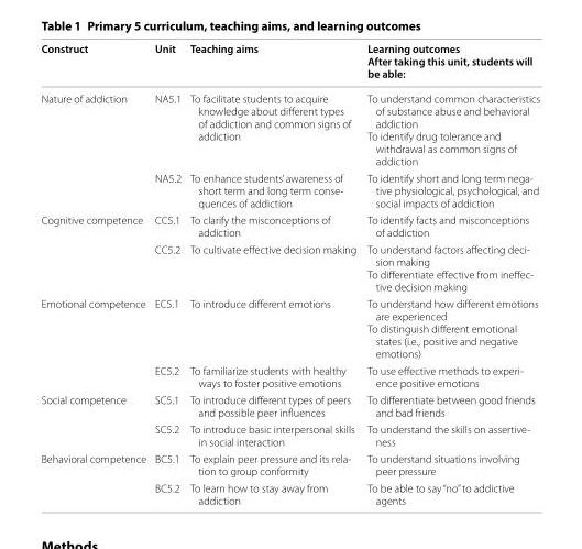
<table><thead><tr><td>Construct</td><td>Unit</td><td>Teaching aims</td><td>Learning outcomes After taking this unit, students will be able:</td></tr></thead><tbody><tr><td rowspan="2">Nature of addiction</td><td>NA5.1</td><td>To facilitate students to acquire knowledge about different types of addiction and common signs of addiction</td><td>To understand common characteristics of substance abuse and behavioral addiction To identify drug tolerance and withdrawal as common signs of addiction</td></tr><tr><td>NA5.2</td><td>To enhance students’ awareness of short term and long term conse- quences of addiction</td><td>To identify short and long term nega- tive physiological, psychological, and social impacts of addiction</td></tr><tr><td rowspan="2">Cognitive competence</td><td>CC5.1</td><td>To clarify the misconceptions of addiction</td><td>To identify facts and misconceptions of addiction</td></tr><tr><td>CC5.2</td><td>To cultivate effective decision making</td><td>To understand factors affecting deci- sion making To differentiate effective from ineffec- tive decision making</td></tr><tr><td rowspan="2">Emotional competence</td><td>EC5.1</td><td>To introduce different emotions</td><td>To understand how different emotions are experienced To distinguish different emotional states (i.e., positive and negative emotions)</td></tr><tr><td>EC5.2</td><td>To familiarize students with healthy ways to foster positive emotions</td><td>To use effective methods to experi- ence positive emotions</td></tr><tr><td rowspan="2">Social competence</td><td>SC5.1</td><td>To introduce different types of peers and possible peer influences</td><td>To differentiate between good friends and bad friends</td></tr><tr><td>SC5.2</td><td>To introduce basic interpersonal skills in social interaction</td><td>To understand the skills on assertive- ness</td></tr><tr><td rowspan="2">Behavioral competence</td><td>BC5.1</td><td>To explain peer pressure and its rela- tion to group conformity</td><td>To understand situations involving peer pressure</td></tr><tr><td>BC5.2</td><td>To learn how to stay away from addiction</td><td>To be able to say “no” to addictive agents</td></tr></tbody></table>